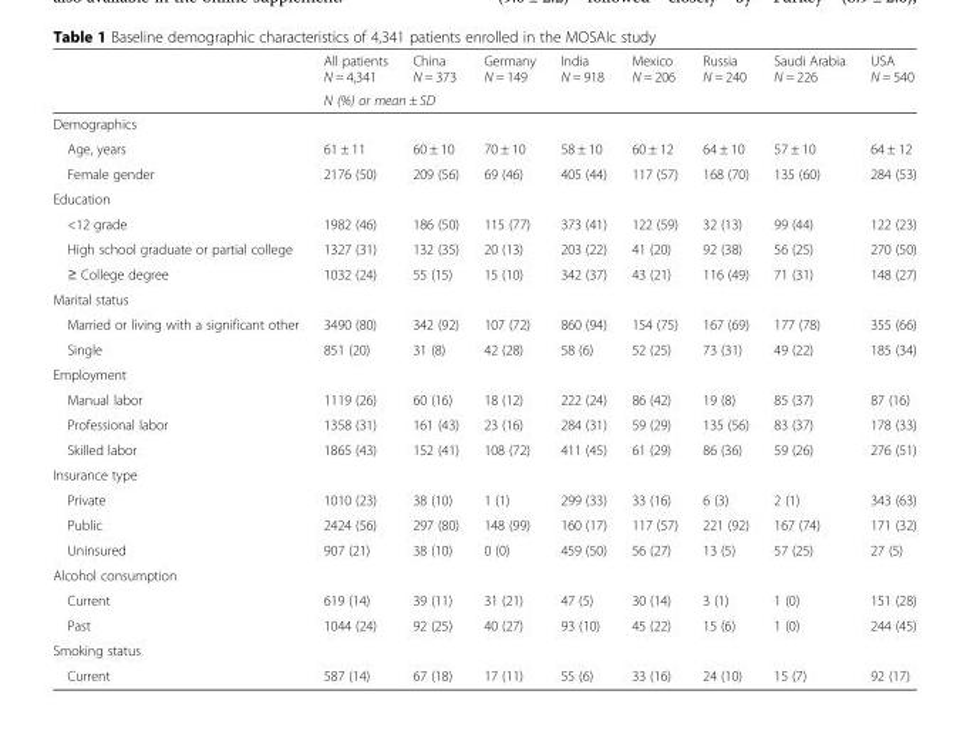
<table><thead><tr><td rowspan="2"></td><td>All patients N = 4,341</td><td>China N = 373</td><td>Germany N = 149</td><td>India N = 918</td><td>Mexico N = 206</td><td>Russia N = 240</td><td>Saudi Arabia N = 226</td><td>USA N = 540</td></tr><tr><td colspan="8">N (%) or mean ± SD</td></tr></thead><tbody><tr><td colspan="9">Demographics</td></tr><tr><td>Age, years</td><td>61 ± 11</td><td>60 ± 10</td><td>70 ± 10</td><td>58 ± 10</td><td>60 ± 12</td><td>64 ± 10</td><td>57 ± 10</td><td>64 ± 12</td></tr><tr><td>Female gender</td><td>2176 (50)</td><td>209 (56)</td><td>69 (46)</td><td>405 (44)</td><td>117 (57)</td><td>168 (70)</td><td>135 (60)</td><td>284 (53)</td></tr><tr><td colspan="9">Education</td></tr><tr><td>&lt;12 grade</td><td>1982 (46)</td><td>186 (50)</td><td>115 (77)</td><td>373 (41)</td><td>122 (59)</td><td>32 (13)</td><td>99 (44)</td><td>122 (23)</td></tr><tr><td>High school graduate or partial college</td><td>1327 (31)</td><td>132 (35)</td><td>20 (13)</td><td>203 (22)</td><td>41 (20)</td><td>92 (38)</td><td>56 (25)</td><td>270 (50)</td></tr><tr><td>≥ College degree</td><td>1032 (24)</td><td>55 (15)</td><td>15 (10)</td><td>342 (37)</td><td>43 (21)</td><td>116 (49)</td><td>71 (31)</td><td>148 (27)</td></tr><tr><td colspan="9">Marital status</td></tr><tr><td>Married or living with a significant other</td><td>3490 (80)</td><td>342 (92)</td><td>107 (72)</td><td>860 (94)</td><td>154 (75)</td><td>167 (69)</td><td>177 (78)</td><td>355 (66)</td></tr><tr><td>Single</td><td>851 (20)</td><td>31 (8)</td><td>42 (28)</td><td>58 (6)</td><td>52 (25)</td><td>73 (31)</td><td>49 (22)</td><td>185 (34)</td></tr><tr><td colspan="9">Employment</td></tr><tr><td>Manual labor</td><td>1119 (26)</td><td>60 (16)</td><td>18 (12)</td><td>222 (24)</td><td>86 (42)</td><td>19 (8)</td><td>85 (37)</td><td>87 (16)</td></tr><tr><td>Professional labor</td><td>1358 (31)</td><td>161 (43)</td><td>23 (16)</td><td>284 (31)</td><td>59 (29)</td><td>135 (56)</td><td>83 (37)</td><td>178 (33)</td></tr><tr><td>Skilled labor</td><td>1865 (43)</td><td>152 (41)</td><td>108 (72)</td><td>411 (45)</td><td>61 (29)</td><td>86 (36)</td><td>59 (26)</td><td>276 (51)</td></tr><tr><td colspan="9">Insurance type</td></tr><tr><td>Private</td><td>1010 (23)</td><td>38 (10)</td><td>1 (1)</td><td>299 (33)</td><td>33 (16)</td><td>6 (3)</td><td>2 (1)</td><td>343 (63)</td></tr><tr><td>Public</td><td>2424 (56)</td><td>297 (80)</td><td>148 (99)</td><td>160 (17)</td><td>117 (57)</td><td>221 (92)</td><td>167 (74)</td><td>171 (32)</td></tr><tr><td>Uninsured</td><td>907 (21)</td><td>38 (10)</td><td>0 (0)</td><td>459 (50)</td><td>56 (27)</td><td>13 (5)</td><td>57 (25)</td><td>27 (5)</td></tr><tr><td colspan="9">Alcohol consumption</td></tr><tr><td>Current</td><td>619 (14)</td><td>39 (11)</td><td>31 (21)</td><td>47 (5)</td><td>30 (14)</td><td>3 (1)</td><td>1 (0)</td><td>151 (28)</td></tr><tr><td>Past</td><td>1044 (24)</td><td>92 (25)</td><td>40 (27)</td><td>93 (10)</td><td>45 (22)</td><td>15 (6)</td><td>1 (0)</td><td>244 (45)</td></tr><tr><td colspan="9">Smoking status</td></tr><tr><td>Current</td><td>587 (14)</td><td>67 (18)</td><td>17 (11)</td><td>55 (6)</td><td>33 (16)</td><td>24 (10)</td><td>15 (7)</td><td>92 (17)</td></tr></tbody></table>